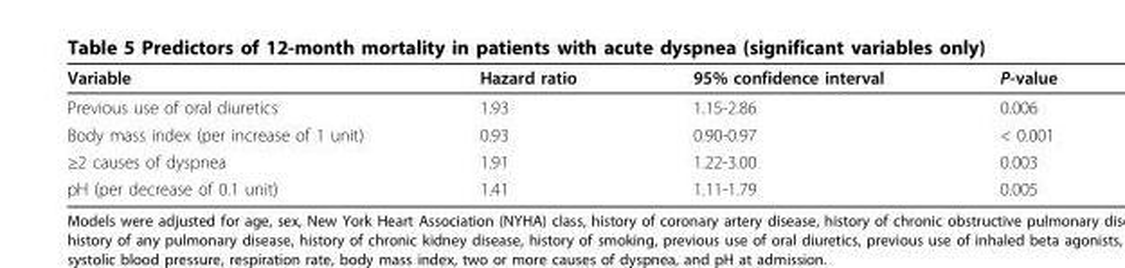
<table><thead><tr><td>Variable</td><td>Hazard ratio</td><td>95% confidence interval</td><td>P-value</td></tr></thead><tbody><tr><td>Previous use of oral diuretics</td><td>1.93</td><td>1.15-2.86</td><td>0.006</td></tr><tr><td>Body mass index (per increase of 1 unit)</td><td>0.93</td><td>0.90-0.97</td><td>&lt; 0.001</td></tr><tr><td>≥2 causes of dyspnea</td><td>1.91</td><td>1.22-3.00</td><td>0.003</td></tr><tr><td>pH (per decrease of 0.1 unit)</td><td>1.41</td><td>1.11-1.79</td><td>0.005</td></tr></tbody></table>